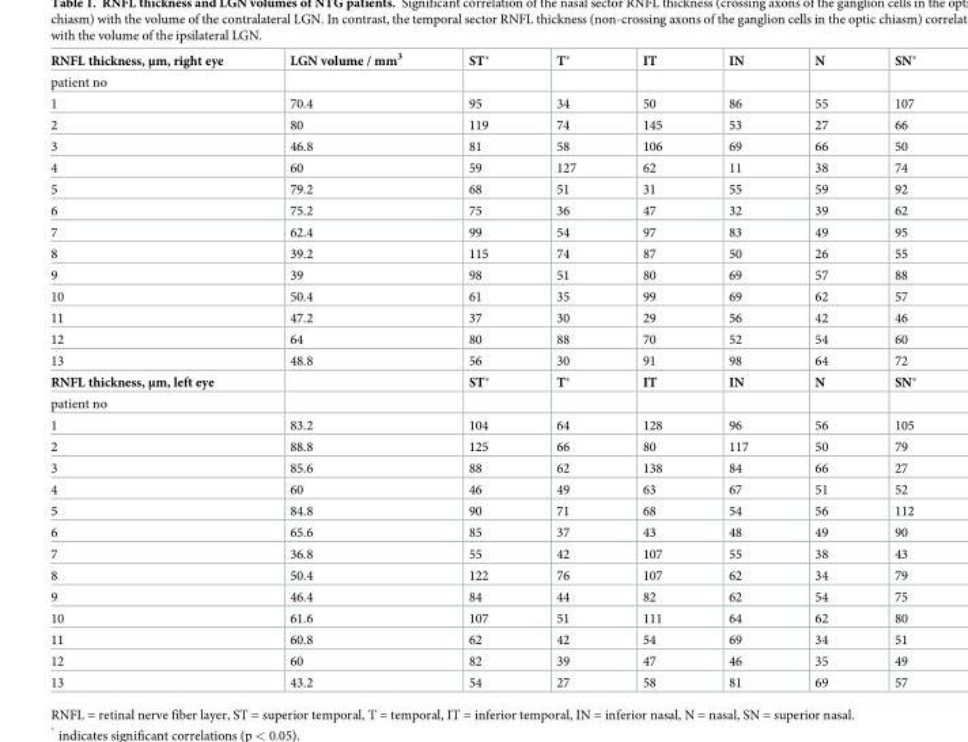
<table><tbody><tr><td>RNFL thickness, μm, right eye</td><td>LGN volume / mm<sup>3</sup></td><td>ST*</td><td>T*</td><td>IT</td><td>IN</td><td>N</td><td>SN*</td></tr><tr><td colspan="8">patient no</td></tr><tr><td>1</td><td>70.4</td><td>95</td><td>34</td><td>50</td><td>86</td><td>55</td><td>107</td></tr><tr><td>2</td><td>80</td><td>119</td><td>74</td><td>145</td><td>53</td><td>27</td><td>66</td></tr><tr><td>3</td><td>46.8</td><td>81</td><td>58</td><td>106</td><td>69</td><td>66</td><td>50</td></tr><tr><td>4</td><td>60</td><td>59</td><td>127</td><td>62</td><td>11</td><td>38</td><td>74</td></tr><tr><td>5</td><td>79.2</td><td>68</td><td>51</td><td>31</td><td>55</td><td>59</td><td>92</td></tr><tr><td>6</td><td>75.2</td><td>75</td><td>36</td><td>47</td><td>32</td><td>39</td><td>62</td></tr><tr><td>7</td><td>62.4</td><td>99</td><td>54</td><td>97</td><td>83</td><td>49</td><td>95</td></tr><tr><td>8</td><td>39.2</td><td>115</td><td>74</td><td>87</td><td>50</td><td>26</td><td>55</td></tr><tr><td>9</td><td>39</td><td>98</td><td>51</td><td>80</td><td>69</td><td>57</td><td>88</td></tr><tr><td>10</td><td>50.4</td><td>61</td><td>35</td><td>99</td><td>69</td><td>62</td><td>57</td></tr><tr><td>11</td><td>47.2</td><td>37</td><td>30</td><td>29</td><td>56</td><td>42</td><td>46</td></tr><tr><td>12</td><td>64</td><td>80</td><td>88</td><td>70</td><td>52</td><td>54</td><td>60</td></tr><tr><td>13</td><td>48.8</td><td>56</td><td>30</td><td>91</td><td>98</td><td>64</td><td>72</td></tr><tr><td>RNFL thickness, μm, left eye</td><td></td><td>ST*</td><td>T*</td><td>IT</td><td>IN</td><td>N</td><td>SN*</td></tr><tr><td colspan="8">patient no</td></tr><tr><td>1</td><td>83.2</td><td>104</td><td>64</td><td>128</td><td>96</td><td>56</td><td>105</td></tr><tr><td>2</td><td>88.8</td><td>125</td><td>66</td><td>80</td><td>117</td><td>50</td><td>79</td></tr><tr><td>3</td><td>85.6</td><td>88</td><td>62</td><td>138</td><td>84</td><td>66</td><td>27</td></tr><tr><td>4</td><td>60</td><td>46</td><td>49</td><td>63</td><td>67</td><td>51</td><td>52</td></tr><tr><td>5</td><td>84.8</td><td>90</td><td>71</td><td>68</td><td>54</td><td>56</td><td>112</td></tr><tr><td>6</td><td>65.6</td><td>85</td><td>37</td><td>43</td><td>48</td><td>49</td><td>90</td></tr><tr><td>7</td><td>36.8</td><td>55</td><td>42</td><td>107</td><td>55</td><td>38</td><td>43</td></tr><tr><td>8</td><td>50.4</td><td>122</td><td>76</td><td>107</td><td>62</td><td>34</td><td>79</td></tr><tr><td>9</td><td>46.4</td><td>84</td><td>44</td><td>82</td><td>62</td><td>54</td><td>75</td></tr><tr><td>10</td><td>61.6</td><td>107</td><td>51</td><td>111</td><td>64</td><td>62</td><td>80</td></tr><tr><td>11</td><td>60.8</td><td>62</td><td>42</td><td>54</td><td>69</td><td>34</td><td>51</td></tr><tr><td>12</td><td>60</td><td>82</td><td>39</td><td>47</td><td>46</td><td>35</td><td>49</td></tr><tr><td>13</td><td>43.2</td><td>54</td><td>27</td><td>58</td><td>81</td><td>69</td><td>57</td></tr></tbody></table>